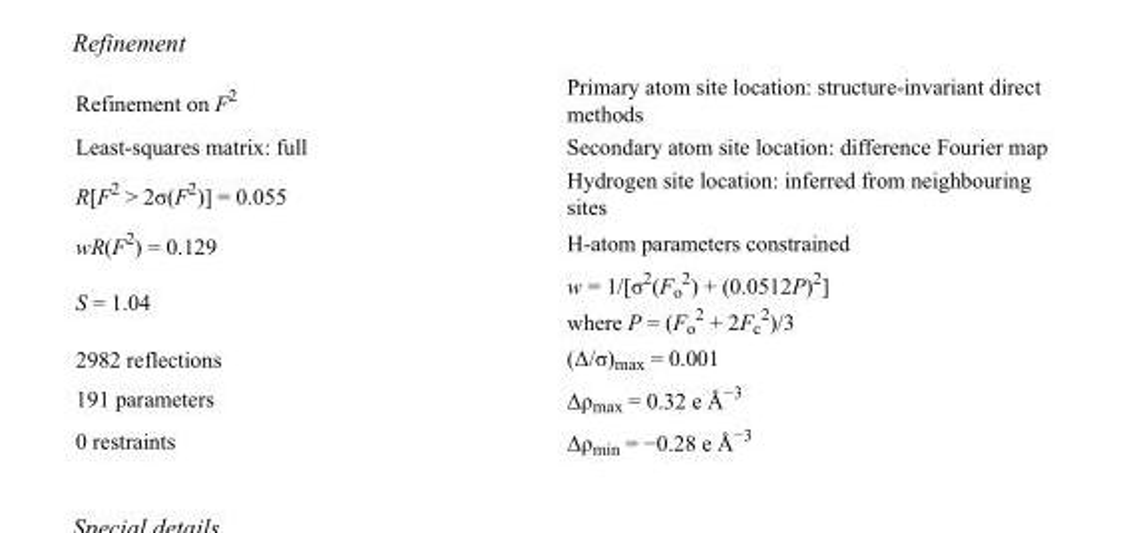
<table><tbody><tr><td>Refinement on F<sup>2</sup></td><td>Primary atom site location: structure-invariant direct methods</td></tr><tr><td>Least-squares matrix: full</td><td>Secondary atom site location: difference Fourier map</td></tr><tr><td>R[F<sup>2</sup> &gt; 2σ(F<sup>2</sup>)] = 0.055</td><td>Hydrogen site location: inferred from neighbouring sites</td></tr><tr><td>wR(F<sup>2</sup>) = 0.129</td><td>H-atom parameters constrained</td></tr><tr><td>S = 1.04</td><td>w = 1/[σ<sup>2</sup>(F<sub>o</sub> <sup>2</sup>) + (0.0512P)<sup>2</sup>] where P = (F<sub>o</sub> <sup>2</sup> + 2F<sub>c</sub> <sup>2</sup>)/3</td></tr><tr><td>2982 reflections</td><td>(Δ/σ)<sub>max</sub> = 0.001</td></tr><tr><td>191 parameters</td><td>Δρ<sub>max</sub> = 0.32 e Å<sup>−3</sup></td></tr><tr><td>0 restraints</td><td>Δρ<sub>min</sub> = −0.28 e Å<sup>−3</sup></td></tr></tbody></table>